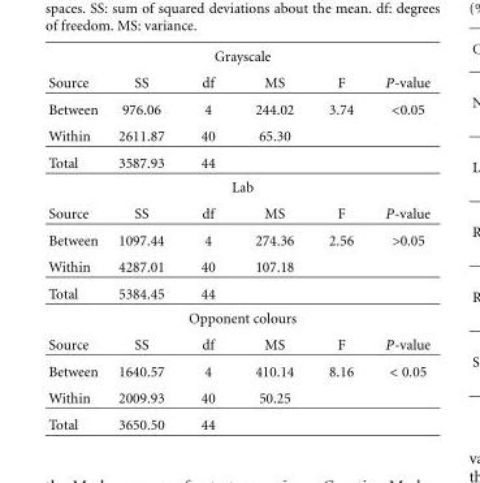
<table><thead><tr><td colspan="6">Grayscale</td></tr><tr><td>Source</td><td>SS</td><td>df</td><td>MS</td><td>F</td><td>P-value</td></tr></thead><tbody><tr><td>Between</td><td>976.06</td><td>4</td><td>244.02</td><td>3.74</td><td>&lt;0.05</td></tr><tr><td>Within</td><td>2611.87</td><td>40</td><td>65.30</td><td></td><td></td></tr><tr><td>Total</td><td>3587.93</td><td>44</td><td></td><td></td><td></td></tr><tr><td colspan="6">Lab</td></tr><tr><td>Source</td><td>SS</td><td>df</td><td>MS</td><td>F</td><td>P-value</td></tr><tr><td>Between</td><td>1097.44</td><td>4</td><td>274.36</td><td>2.56</td><td>&gt;0.05</td></tr><tr><td>Within</td><td>4287.01</td><td>40</td><td>107.18</td><td></td><td></td></tr><tr><td>Total</td><td>5384.45</td><td>44</td><td></td><td></td><td></td></tr><tr><td colspan="6">Opponent colours</td></tr><tr><td>Source</td><td>SS</td><td>df</td><td>MS</td><td>F</td><td>P-value</td></tr><tr><td>Between</td><td>1640.57</td><td>4</td><td>410.14</td><td>8.16</td><td>&lt; 0.05</td></tr><tr><td>Within</td><td>2009.93</td><td>40</td><td>50.25</td><td></td><td></td></tr><tr><td>Total</td><td>3650.50</td><td>44</td><td></td><td></td><td></td></tr></tbody></table>